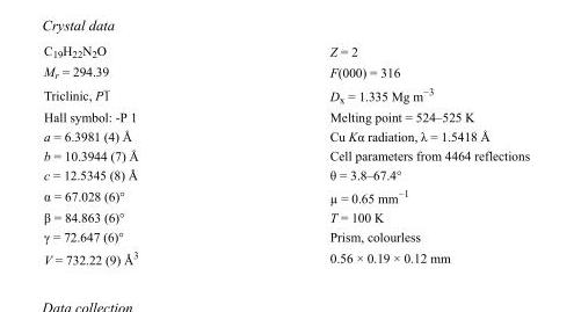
<table><tbody><tr><td>C<sub>19</sub>H<sub>22</sub>N<sub>2</sub>O</td><td>Z = 2</td></tr><tr><td>M<sub>r</sub> = 294.39</td><td>F(000) = 316</td></tr><tr><td>Triclinic, P1</td><td>D<sub>x</sub> = 1.335 Mg m<sup>−3</sup></td></tr><tr><td>Hall symbol: -P 1</td><td>Melting point = 524–525 K</td></tr><tr><td>a = 6.3981 (4) Å</td><td>Cu Kα radiation, λ = 1.5418 Å</td></tr><tr><td>b = 10.3944 (7) Å</td><td>Cell parameters from 4464 reflections</td></tr><tr><td>c = 12.5345 (8) Å</td><td>θ = 3.8–67.4°</td></tr><tr><td>α = 67.028 (6)°</td><td>µ = 0.65 mm<sup>−1</sup></td></tr><tr><td>β = 84.863 (6)°</td><td>T = 100 K</td></tr><tr><td>γ = 72.647 (6)°</td><td>Prism, colourless</td></tr><tr><td>V = 732.22 (9) Å<sup>3</sup></td><td>0.56 × 0.19 × 0.12 mm</td></tr></tbody></table>